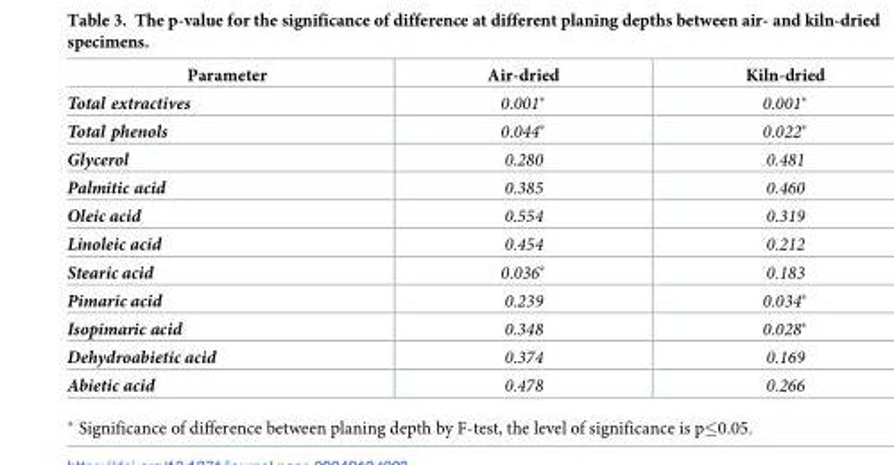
<table><thead><tr><td>Parameter</td><td>Air-dried</td><td>Kiln-dried</td></tr></thead><tbody><tr><td>Total extractives</td><td>0.001*</td><td>0.001*</td></tr><tr><td>Total phenols</td><td>0.044*</td><td>0.022*</td></tr><tr><td>Glycerol</td><td>0.280</td><td>0.481</td></tr><tr><td>Palmitic acid</td><td>0.385</td><td>0.460</td></tr><tr><td>Oleic acid</td><td>0.554</td><td>0.319</td></tr><tr><td>Linoleic acid</td><td>0.454</td><td>0.212</td></tr><tr><td>Stearic acid</td><td>0.036*</td><td>0.183</td></tr><tr><td>Pimaric acid</td><td>0.239</td><td>0.034*</td></tr><tr><td>Isopimaric acid</td><td>0.348</td><td>0.028*</td></tr><tr><td>Dehydroabietic acid</td><td>0.374</td><td>0.169</td></tr><tr><td>Abietic acid</td><td>0.478</td><td>0.266</td></tr></tbody></table>